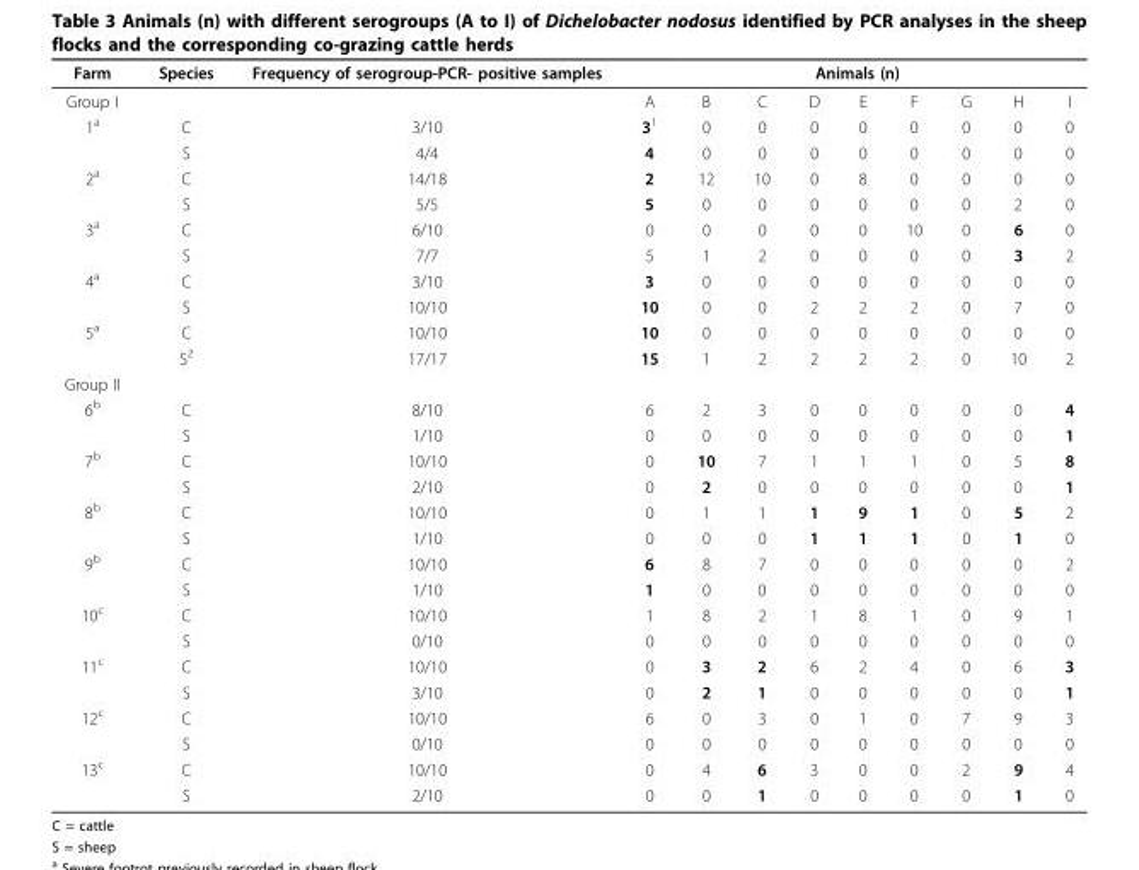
<table><thead><tr><td rowspan="2">Farm Group I</td><td rowspan="2">Species</td><td rowspan="2">Frequency of serogroup-PCR- positive samples</td><td colspan="9">Animals (n)</td></tr><tr><td>A</td><td>B</td><td>C</td><td>D</td><td>E</td><td>F</td><td>G</td><td>H</td><td>I</td></tr></thead><tbody><tr><td rowspan="2">1<sup>a</sup></td><td>C</td><td>3/10</td><td>3<sup>1</sup></td><td>0</td><td>0</td><td>0</td><td>0</td><td>0</td><td>0</td><td>0</td><td>0</td></tr><tr><td>S</td><td>4/4</td><td>4</td><td>0</td><td>0</td><td>0</td><td>0</td><td>0</td><td>0</td><td>0</td><td>0</td></tr><tr><td rowspan="2">2<sup>a</sup></td><td>C</td><td>14/18</td><td>2</td><td>12</td><td>10</td><td>0</td><td>8</td><td>0</td><td>0</td><td>0</td><td>0</td></tr><tr><td>S</td><td>5/5</td><td>5</td><td>0</td><td>0</td><td>0</td><td>0</td><td>0</td><td>0</td><td>2</td><td>0</td></tr><tr><td rowspan="2">3<sup>a</sup></td><td>C</td><td>6/10</td><td>0</td><td>0</td><td>0</td><td>0</td><td>0</td><td>10</td><td>0</td><td>6</td><td>0</td></tr><tr><td>S</td><td>7/7</td><td>5</td><td>1</td><td>2</td><td>0</td><td>0</td><td>0</td><td>0</td><td>3</td><td>2</td></tr><tr><td rowspan="2">4<sup>a</sup></td><td>C</td><td>3/10</td><td>3</td><td>0</td><td>0</td><td>0</td><td>0</td><td>0</td><td>0</td><td>0</td><td>0</td></tr><tr><td>S</td><td>10/10</td><td>10</td><td>0</td><td>0</td><td>2</td><td>2</td><td>2</td><td>0</td><td>7</td><td>0</td></tr><tr><td rowspan="2">5<sup>a</sup></td><td>C</td><td>10/10</td><td>10</td><td>0</td><td>0</td><td>0</td><td>0</td><td>0</td><td>0</td><td>0</td><td>0</td></tr><tr><td>S<sup>2</sup></td><td>17/17</td><td>15</td><td>1</td><td>2</td><td>2</td><td>2</td><td>2</td><td>0</td><td>10</td><td>2</td></tr><tr><td colspan="12">Group II</td></tr><tr><td rowspan="2">6<sup>b</sup></td><td>C</td><td>8/10</td><td>6</td><td>2</td><td>3</td><td>0</td><td>0</td><td>0</td><td>0</td><td>0</td><td>4</td></tr><tr><td>S</td><td>1/10</td><td>0</td><td>0</td><td>0</td><td>0</td><td>0</td><td>0</td><td>0</td><td>0</td><td>1</td></tr><tr><td rowspan="2">7<sup>b</sup></td><td>C</td><td>10/10</td><td>0</td><td>10</td><td>7</td><td>1</td><td>1</td><td>1</td><td>0</td><td>5</td><td>8</td></tr><tr><td>S</td><td>2/10</td><td>0</td><td>2</td><td>0</td><td>0</td><td>0</td><td>0</td><td>0</td><td>0</td><td>1</td></tr><tr><td rowspan="2">8<sup>b</sup></td><td>C</td><td>10/10</td><td>0</td><td>1</td><td>1</td><td>1</td><td>9</td><td>1</td><td>0</td><td>5</td><td>2</td></tr><tr><td>S</td><td>1/10</td><td>0</td><td>0</td><td>0</td><td>1</td><td>1</td><td>1</td><td>0</td><td>1</td><td>0</td></tr><tr><td rowspan="2">9<sup>b</sup></td><td>C</td><td>10/10</td><td>6</td><td>8</td><td>7</td><td>0</td><td>0</td><td>0</td><td>0</td><td>0</td><td>2</td></tr><tr><td>S</td><td>1/10</td><td>1</td><td>0</td><td>0</td><td>0</td><td>0</td><td>0</td><td>0</td><td>0</td><td>0</td></tr><tr><td rowspan="2">10<sup>c</sup></td><td>C</td><td>10/10</td><td>1</td><td>8</td><td>2</td><td>1</td><td>8</td><td>1</td><td>0</td><td>9</td><td>1</td></tr><tr><td>S</td><td>0/10</td><td>0</td><td>0</td><td>0</td><td>0</td><td>0</td><td>0</td><td>0</td><td>0</td><td>0</td></tr><tr><td rowspan="2">11<sup>c</sup></td><td>C</td><td>10/10</td><td>0</td><td>3</td><td>2</td><td>6</td><td>2</td><td>4</td><td>0</td><td>6</td><td>3</td></tr><tr><td>S</td><td>3/10</td><td>0</td><td>2</td><td>1</td><td>0</td><td>0</td><td>0</td><td>0</td><td>0</td><td>1</td></tr><tr><td rowspan="2">12<sup>c</sup></td><td>C</td><td>10/10</td><td>6</td><td>0</td><td>3</td><td>0</td><td>1</td><td>0</td><td>7</td><td>9</td><td>3</td></tr><tr><td>S</td><td>0/10</td><td>0</td><td>0</td><td>0</td><td>0</td><td>0</td><td>0</td><td>0</td><td>0</td><td>0</td></tr><tr><td rowspan="2">13<sup>c</sup></td><td>C</td><td>10/10</td><td>0</td><td>4</td><td>6</td><td>3</td><td>0</td><td>0</td><td>2</td><td>9</td><td>4</td></tr><tr><td>S</td><td>2/10</td><td>0</td><td>0</td><td>1</td><td>0</td><td>0</td><td>0</td><td>0</td><td>1</td><td>0</td></tr></tbody></table>